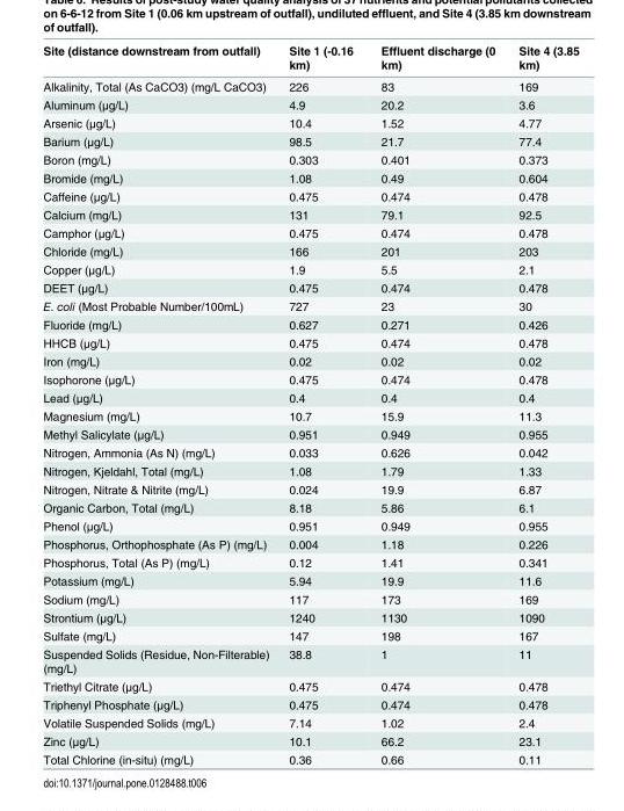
<table><thead><tr><td>Site (distance downstream from outfall)</td><td>Site 1 (-0.16 km)</td><td>Effluent discharge (0 km)</td><td>Site 4 (3.85 km)</td></tr></thead><tbody><tr><td>Alkalinity, Total (As CaCO3) (mg/L CaCO3)</td><td>226</td><td>83</td><td>169</td></tr><tr><td>Aluminum (μg/L)</td><td>4.9</td><td>20.2</td><td>3.6</td></tr><tr><td>Arsenic (μg/L)</td><td>10.4</td><td>1.52</td><td>4.77</td></tr><tr><td>Barium (μg/L)</td><td>98.5</td><td>21.7</td><td>77.4</td></tr><tr><td>Boron (mg/L)</td><td>0.303</td><td>0.401</td><td>0.373</td></tr><tr><td>Bromide (mg/L)</td><td>1.08</td><td>0.49</td><td>0.604</td></tr><tr><td>Caffeine (μg/L)</td><td>0.475</td><td>0.474</td><td>0.478</td></tr><tr><td>Calcium (mg/L)</td><td>131</td><td>79.1</td><td>92.5</td></tr><tr><td>Camphor (μg/L)</td><td>0.475</td><td>0.474</td><td>0.478</td></tr><tr><td>Chloride (mg/L)</td><td>166</td><td>201</td><td>203</td></tr><tr><td>Copper (μg/L)</td><td>1.9</td><td>5.5</td><td>2.1</td></tr><tr><td>DEET (μg/L)</td><td>0.475</td><td>0.474</td><td>0.478</td></tr><tr><td>E. coli (Most Probable Number/100mL)</td><td>727</td><td>23</td><td>30</td></tr><tr><td>Fluoride (mg/L)</td><td>0.627</td><td>0.271</td><td>0.426</td></tr><tr><td>HHCB (μg/L)</td><td>0.475</td><td>0.474</td><td>0.478</td></tr><tr><td>Iron (mg/L)</td><td>0.02</td><td>0.02</td><td>0.02</td></tr><tr><td>Isophorone (μg/L)</td><td>0.475</td><td>0.474</td><td>0.478</td></tr><tr><td>Lead (μg/L)</td><td>0.4</td><td>0.4</td><td>0.4</td></tr><tr><td>Magnesium (mg/L)</td><td>10.7</td><td>15.9</td><td>11.3</td></tr><tr><td>Methyl Salicylate (μg/L)</td><td>0.951</td><td>0.949</td><td>0.955</td></tr><tr><td>Nitrogen, Ammonia (As N) (mg/L)</td><td>0.033</td><td>0.626</td><td>0.042</td></tr><tr><td>Nitrogen, Kjeldahl, Total (mg/L)</td><td>1.08</td><td>1.79</td><td>1.33</td></tr><tr><td>Nitrogen, Nitrate &amp; Nitrite (mg/L)</td><td>0.024</td><td>19.9</td><td>6.87</td></tr><tr><td>Organic Carbon, Total (mg/L)</td><td>8.18</td><td>5.86</td><td>6.1</td></tr><tr><td>Phenol (μg/L)</td><td>0.951</td><td>0.949</td><td>0.955</td></tr><tr><td>Phosphorus, Orthophosphate (As P) (mg/L)</td><td>0.004</td><td>1.18</td><td>0.226</td></tr><tr><td>Phosphorus, Total (As P) (mg/L)</td><td>0.12</td><td>1.41</td><td>0.341</td></tr><tr><td>Potassium (mg/L)</td><td>5.94</td><td>19.9</td><td>11.6</td></tr><tr><td>Sodium (mg/L)</td><td>117</td><td>173</td><td>169</td></tr><tr><td>Strontium (μg/L)</td><td>1240</td><td>1130</td><td>1090</td></tr><tr><td>Sulfate (mg/L)</td><td>147</td><td>198</td><td>167</td></tr><tr><td>Suspended Solids (Residue, Non-Filterable) (mg/L)</td><td>38.8</td><td>1</td><td>11</td></tr><tr><td>Triethyl Citrate (μg/L)</td><td>0.475</td><td>0.474</td><td>0.478</td></tr><tr><td>Triphenyl Phosphate (μg/L)</td><td>0.475</td><td>0.474</td><td>0.478</td></tr><tr><td>Volatile Suspended Solids (mg/L)</td><td>7.14</td><td>1.02</td><td>2.4</td></tr><tr><td>Zinc (μg/L)</td><td>10.1</td><td>66.2</td><td>23.1</td></tr><tr><td>Total Chlorine (in-situ) (mg/L)</td><td>0.36</td><td>0.66</td><td>0.11</td></tr></tbody></table>